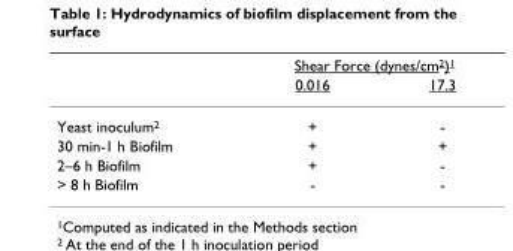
<table><thead><tr><td rowspan="2"></td><td colspan="2">Shear Force (dynes/cm<sup>2</sup>)<sup>1</sup></td></tr><tr><td>0.016</td><td>17.3</td></tr></thead><tbody><tr><td>Yeast inoculum<sup>2</sup></td><td>+</td><td>-</td></tr><tr><td>30 min-1 h Biofilm</td><td>+</td><td>+</td></tr><tr><td>2–6 h Biofilm</td><td>+</td><td>-</td></tr><tr><td>&gt; 8 h Biofilm</td><td>-</td><td>-</td></tr></tbody></table>